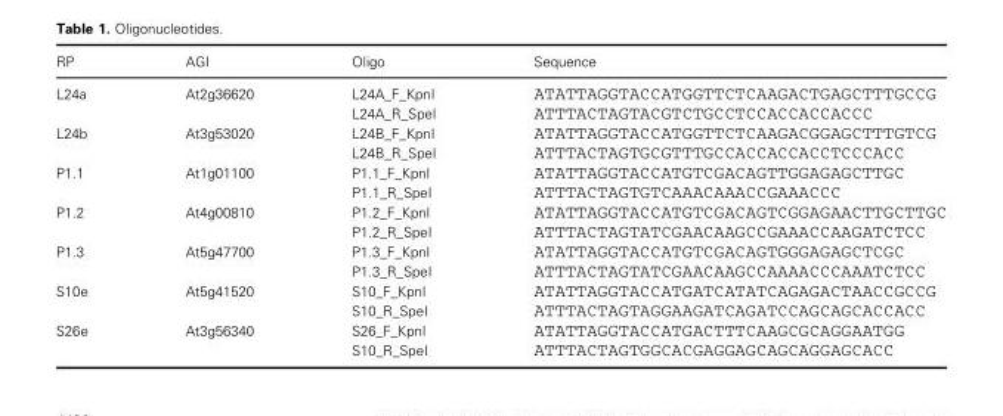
<table><thead><tr><td>RP</td><td>AGI</td><td>Oligo</td><td>Sequence</td></tr></thead><tbody><tr><td rowspan="2">L24a</td><td rowspan="2">At2g36620</td><td>L24A_F_KpnI</td><td>ATATTAGGTACCATGGTTCTCAAGACTGAGCTTTGCCG</td></tr><tr><td>L24A_R_SpeI</td><td>ATTTACTAGTACGTCTGCCTCCACCACCACCC</td></tr><tr><td rowspan="2">L24b</td><td rowspan="2">At3g53020</td><td>L24B_F_KpnI</td><td>ATATTAGGTACCATGGTTCTCAAGACGGAGCTTTGTCG</td></tr><tr><td>L24B_R_SpeI</td><td>ATTTACTAGTGCGTTTGCCACCACCACCTCCCACC</td></tr><tr><td rowspan="2">P1.1</td><td rowspan="2">At1g01100</td><td>P1.1_F_KpnI</td><td>ATATTAGGTACCATGTCGACAGTTGGAGAGCTTGC</td></tr><tr><td>P1.1_R_SpeI</td><td>ATTTACTAGTGTCAAACAAACCGAAACCC</td></tr><tr><td rowspan="2">P1.2</td><td rowspan="2">At4g00810</td><td>P1.2_F_KpnI</td><td>ATATTAGGTACCATGTCGACAGTCGGAGAACTTGCTTGC</td></tr><tr><td>P1.2_R_SpeI</td><td>ATTTACTAGTATCGAACAAGCCGAAACCAAGATCTCC</td></tr><tr><td rowspan="2">P1.3</td><td rowspan="2">At5g47700</td><td>P1.3_F_KpnI</td><td>ATATTAGGTACCATGTCGACAGTGGGAGAGCTCGC</td></tr><tr><td>P1.3_R_SpeI</td><td>ATTTACTAGTATCGAACAAGCCAAAACCCAAATCTCC</td></tr><tr><td rowspan="2">S10e</td><td rowspan="2">At5g41520</td><td>S10_F_KpnI</td><td>ATATTAGGTACCATGATCATATCAGAGACTAACCGCCG</td></tr><tr><td>S10_R_SpeI</td><td>ATTTACTAGTAGGAAGATCAGATCCAGCAGCACCACC</td></tr><tr><td rowspan="2">S26e</td><td rowspan="2">At3g56340</td><td>S26_F_KpnI</td><td>ATATTAGGTACCATGACTTTCAAGCGCAGGAATGG</td></tr><tr><td>S10_R_SpeI</td><td>ATTTACTAGTGGCACGAGGAGCAGCAGGAGCACC</td></tr></tbody></table>